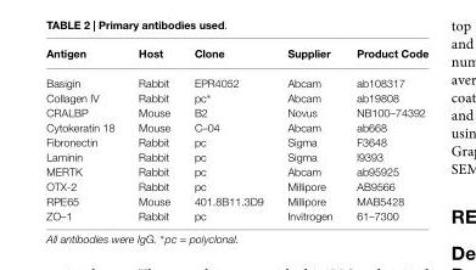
<table><thead><tr><td>Antigen</td><td>Host</td><td>Clone</td><td>Supplier</td><td>Product Code</td></tr></thead><tbody><tr><td>Basigin</td><td>Rabbit</td><td>EPR4052</td><td>Abcam</td><td>ab108317</td></tr><tr><td>Collagen IV</td><td>Rabbit</td><td>pc∗</td><td>Abcam</td><td>ab19808</td></tr><tr><td>CRALBP</td><td>Mouse</td><td>B2</td><td>Novus</td><td>NB100–74392</td></tr><tr><td>Cytokeratin 18</td><td>Mouse</td><td>C–04</td><td>Abcam</td><td>ab668</td></tr><tr><td>Fibronectin</td><td>Rabbit</td><td>pc</td><td>Sigma</td><td>F3648</td></tr><tr><td>Laminin</td><td>Rabbit</td><td>pc</td><td>Sigma</td><td>l9393</td></tr><tr><td>MERTK</td><td>Rabbit</td><td>pc</td><td>Abcam</td><td>ab95925</td></tr><tr><td>OTX-2</td><td>Rabbit</td><td>pc</td><td>Millipore</td><td>AB9566</td></tr><tr><td>RPE65</td><td>Mouse</td><td>401.8B11.3D9</td><td>Millipore</td><td>MAB5428</td></tr><tr><td>ZO–1</td><td>Rabbit</td><td>pc</td><td>Invitrogen</td><td>61–7300</td></tr></tbody></table>